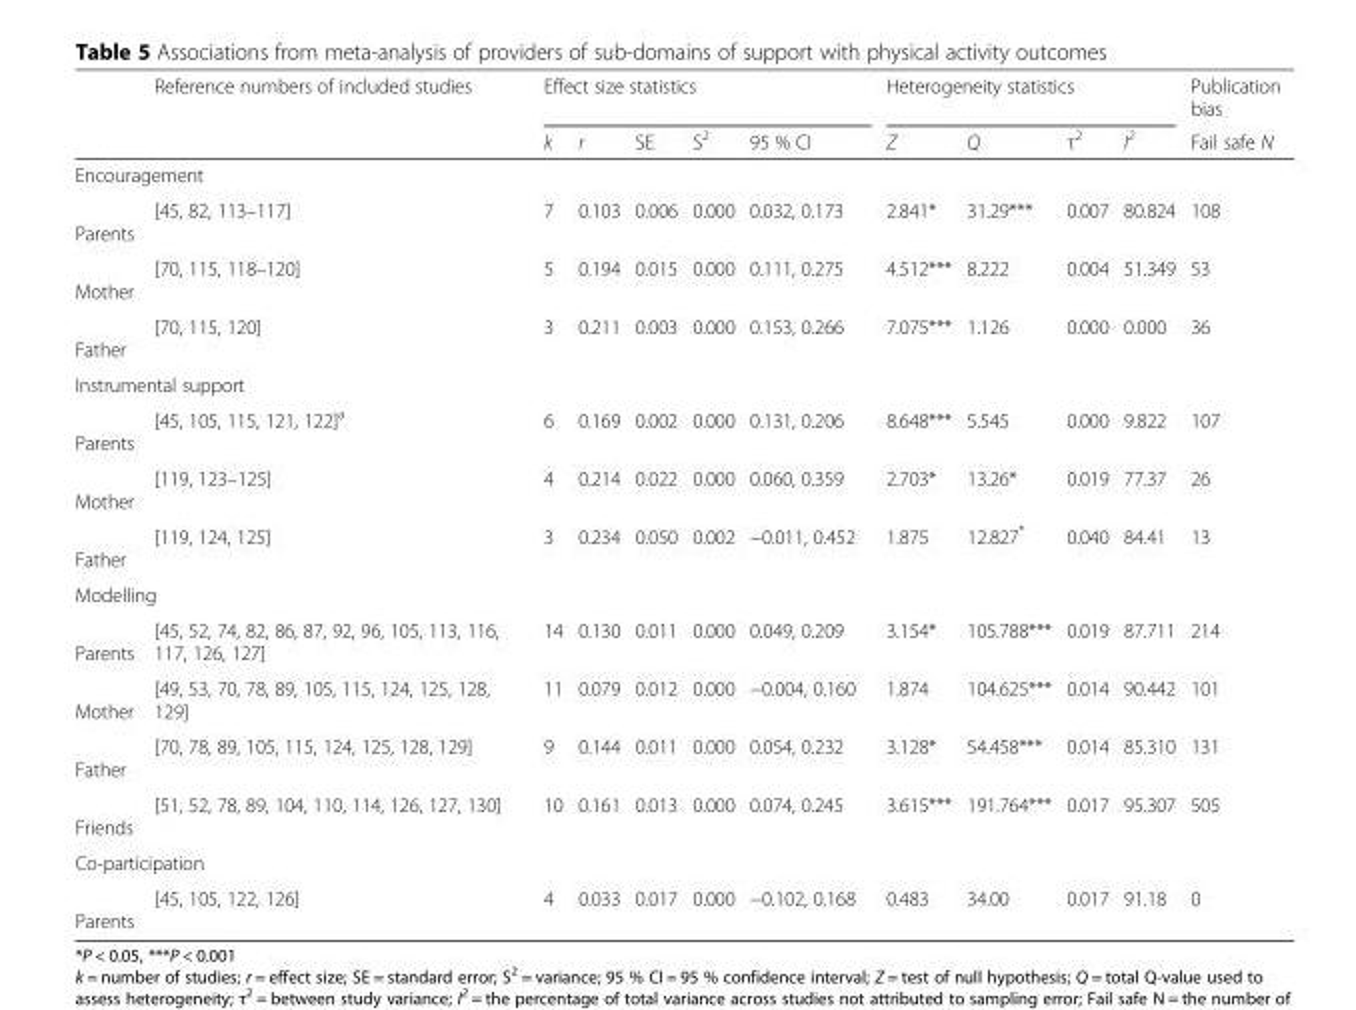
<table><thead><tr><td rowspan="2"></td><td rowspan="2">Reference numbers of included studies</td><td colspan="5">Effect size statistics</td><td colspan="4">Heterogeneity statistics</td><td rowspan="2">Publication bias Fail safe N</td></tr><tr><td>k</td><td>r</td><td>SE</td><td>S<sup>2</sup></td><td>95 % CI</td><td>Z</td><td>Q</td><td>τ<sup>2</sup></td><td>I<sup>2</sup></td></tr></thead><tbody><tr><td colspan="12">Encouragement</td></tr><tr><td>Parents</td><td>[45, 82, 113–117]</td><td>7</td><td>0.103</td><td>0.006</td><td>0.000</td><td>0.032, 0.173</td><td>2.841*</td><td>31.29***</td><td>0.007</td><td>80.824</td><td>108</td></tr><tr><td>Mother</td><td>[70, 115, 118–120]</td><td>5</td><td>0.194</td><td>0.015</td><td>0.000</td><td>0.111, 0.275</td><td>4.512***</td><td>8.222</td><td>0.004</td><td>51.349</td><td>53</td></tr><tr><td>Father</td><td>[70, 115, 120]</td><td>3</td><td>0.211</td><td>0.003</td><td>0.000</td><td>0.153, 0.266</td><td>7.075***</td><td>1.126</td><td>0.000</td><td>0.000</td><td>36</td></tr><tr><td colspan="12">Instrumental support</td></tr><tr><td>Parents</td><td>[45, 105, 115, 121, 122]<sup>a</sup></td><td>6</td><td>0.169</td><td>0.002</td><td>0.000</td><td>0.131, 0.206</td><td>8.648***</td><td>5.545</td><td>0.000</td><td>9.822</td><td>107</td></tr><tr><td>Mother</td><td>[119, 123–125]</td><td>4</td><td>0.214</td><td>0.022</td><td>0.000</td><td>0.060, 0.359</td><td>2.703*</td><td>13.26*</td><td>0.019</td><td>77.37</td><td>26</td></tr><tr><td>Father</td><td>[119, 124, 125]</td><td>3</td><td>0.234</td><td>0.050</td><td>0.002</td><td>−0.011, 0.452</td><td>1.875</td><td>12.827*</td><td>0.040</td><td>84.41</td><td>13</td></tr><tr><td colspan="12">Modelling</td></tr><tr><td>Parents</td><td>[45, 52, 74, 82, 86, 87, 92, 96, 105, 113, 116, 117, 126, 127]</td><td>14</td><td>0.130</td><td>0.011</td><td>0.000</td><td>0.049, 0.209</td><td>3.154*</td><td>105.788***</td><td>0.019</td><td>87.711</td><td>214</td></tr><tr><td>Mother</td><td>[49, 53, 70, 78, 89, 105, 115, 124, 125, 128, 129]</td><td>11</td><td>0.079</td><td>0.012</td><td>0.000</td><td>−0.004, 0.160</td><td>1.874</td><td>104.625***</td><td>0.014</td><td>90.442</td><td>101</td></tr><tr><td>Father</td><td>[70, 78, 89, 105, 115, 124, 125, 128, 129]</td><td>9</td><td>0.144</td><td>0.011</td><td>0.000</td><td>0.054, 0.232</td><td>3.128*</td><td>54.458***</td><td>0.014</td><td>85.310</td><td>131</td></tr><tr><td>Friends</td><td>[51, 52, 78, 89, 104, 110, 114, 126, 127, 130]</td><td>10</td><td>0.161</td><td>0.013</td><td>0.000</td><td>0.074, 0.245</td><td>3.615***</td><td>191.764***</td><td>0.017</td><td>95.307</td><td>505</td></tr><tr><td colspan="12">Co-participation</td></tr><tr><td>Parents</td><td>[45, 105, 122, 126]</td><td>4</td><td>0.033</td><td>0.017</td><td>0.000</td><td>−0.102, 0.168</td><td>0.483</td><td>34.00</td><td>0.017</td><td>91.18</td><td>0</td></tr></tbody></table>